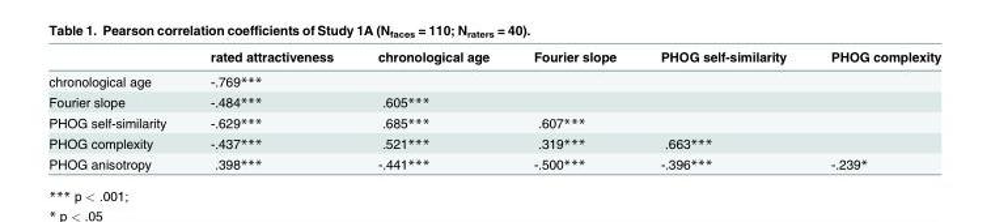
<table><thead><tr><td></td><td>rated attractiveness</td><td>chronological age</td><td>Fourier slope</td><td>PHOG self-similarity</td><td>PHOG complexity</td></tr></thead><tbody><tr><td>chronological age</td><td>-.769***</td><td></td><td></td><td></td><td></td></tr><tr><td>Fourier slope</td><td>-.484***</td><td>.605***</td><td></td><td></td><td></td></tr><tr><td>PHOG self-similarity</td><td>-.629***</td><td>.685***</td><td>.607***</td><td></td><td></td></tr><tr><td>PHOG complexity</td><td>-.437***</td><td>.521***</td><td>.319***</td><td>.663***</td><td></td></tr><tr><td>PHOG anisotropy</td><td>.398***</td><td>-.441***</td><td>-.500***</td><td>-.396***</td><td>-.239*</td></tr></tbody></table>